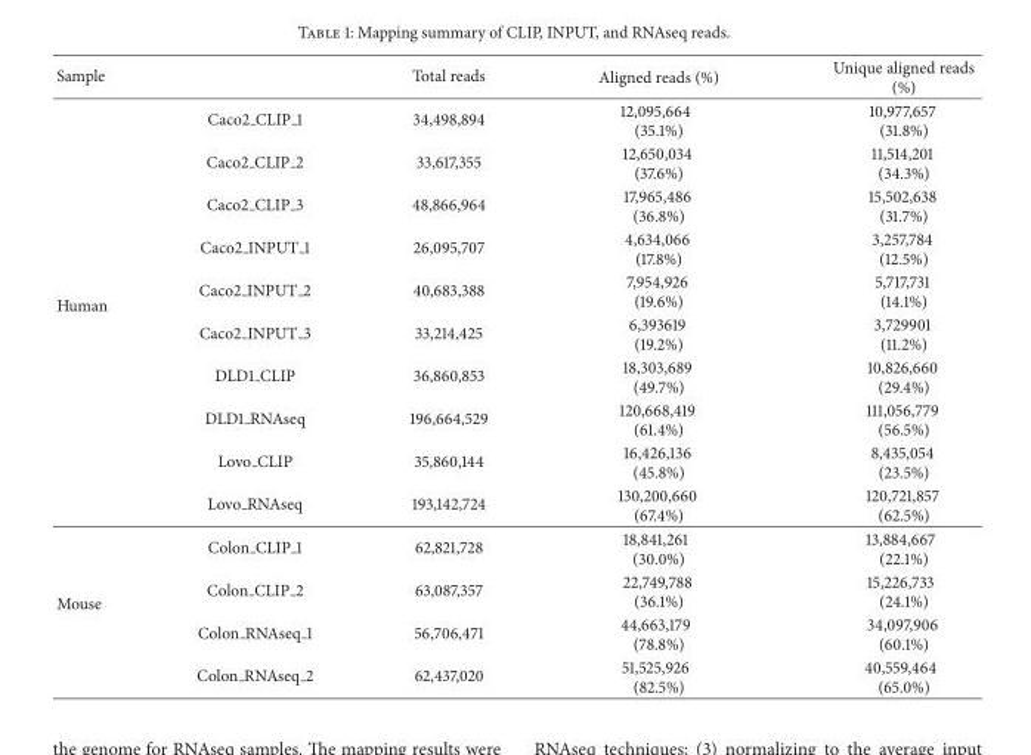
<table><thead><tr><td>Sample</td><td></td><td>Total reads</td><td>Aligned reads (%)</td><td>Unique aligned reads (%)</td></tr></thead><tbody><tr><td rowspan="10">Human</td><td>Caco2 <sub>CLIP</sub> 1</td><td>34,498,894</td><td>12,095,664 (35.1%)</td><td>10,977,657 (31.8%)</td></tr><tr><td>Caco2 <sub>CLIP</sub> 2</td><td>33,617,355</td><td>12,650,034 (37.6%)</td><td>11,514,201 (34.3%)</td></tr><tr><td>Caco2 <sub>CLIP</sub> 3</td><td>48,866,964</td><td>17,965,486 (36.8%)</td><td>15,502,638 (31.7%)</td></tr><tr><td>Caco2 <sub>INPUT</sub> 1</td><td>26,095,707</td><td>4,634,066 (17.8%)</td><td>3,257,784 (12.5%)</td></tr><tr><td>Caco2 <sub>INPUT</sub> 2</td><td>40,683,388</td><td>7,954,926 (19.6%)</td><td>5,717,731 (14.1%)</td></tr><tr><td>Caco2 <sub>INPUT</sub> 3</td><td>33,214,425</td><td>6,393619 (19.2%)</td><td>3,729901 (11.2%)</td></tr><tr><td>DLD1 CLIP</td><td>36,860,853</td><td>18,303,689 (49.7%)</td><td>10,826,660 (29.4%)</td></tr><tr><td>DLD1 RNAseq</td><td>196,664,529</td><td>120,668,419 (61.4%)</td><td>111,056,779 (56.5%)</td></tr><tr><td>Lovo CLIP</td><td>35,860,144</td><td>16,426,136 (45.8%)</td><td>8,435,054 (23.5%)</td></tr><tr><td>Lovo RNAseq</td><td>193,142,724</td><td>130,200,660 (67.4%)</td><td>120,721,857 (62.5%)</td></tr><tr><td rowspan="4">Mouse</td><td>Colon <sub>CLIP</sub> 1</td><td>62,821,728</td><td>18,841,261 (30.0%)</td><td>13,884,667 (22.1%)</td></tr><tr><td>Colon <sub>CLIP</sub> 2</td><td>63,087,357</td><td>22,749,788 (36.1%)</td><td>15,226,733 (24.1%)</td></tr><tr><td>Colon <sub>RNAseq</sub> 1</td><td>56,706,471</td><td>44,663,179 (78.8%)</td><td>34,097,906 (60.1%)</td></tr><tr><td>Colon <sub>RNAseq</sub> 2</td><td>62,437,020</td><td>51,525,926 (82.5%)</td><td>40,559,464 (65.0%)</td></tr></tbody></table>